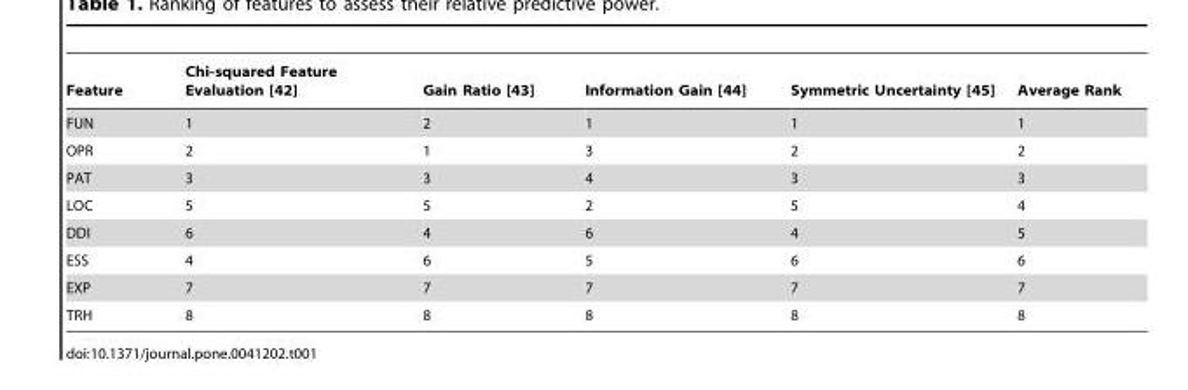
<table><thead><tr><td>Feature</td><td>Chi-squared Feature Evaluation [42]</td><td>Gain Ratio [43]</td><td>Information Gain [44]</td><td>Symmetric Uncertainty [45]</td><td>Average Rank</td></tr></thead><tbody><tr><td>FUN</td><td>1</td><td>2</td><td>1</td><td>1</td><td>1</td></tr><tr><td>OPR</td><td>2</td><td>1</td><td>3</td><td>2</td><td>2</td></tr><tr><td>PAT</td><td>3</td><td>3</td><td>4</td><td>3</td><td>3</td></tr><tr><td>LOC</td><td>5</td><td>5</td><td>2</td><td>5</td><td>4</td></tr><tr><td>DDI</td><td>6</td><td>4</td><td>6</td><td>4</td><td>5</td></tr><tr><td>ESS</td><td>4</td><td>6</td><td>5</td><td>6</td><td>6</td></tr><tr><td>EXP</td><td>7</td><td>7</td><td>7</td><td>7</td><td>7</td></tr><tr><td>TRH</td><td>8</td><td>8</td><td>8</td><td>8</td><td>8</td></tr></tbody></table>